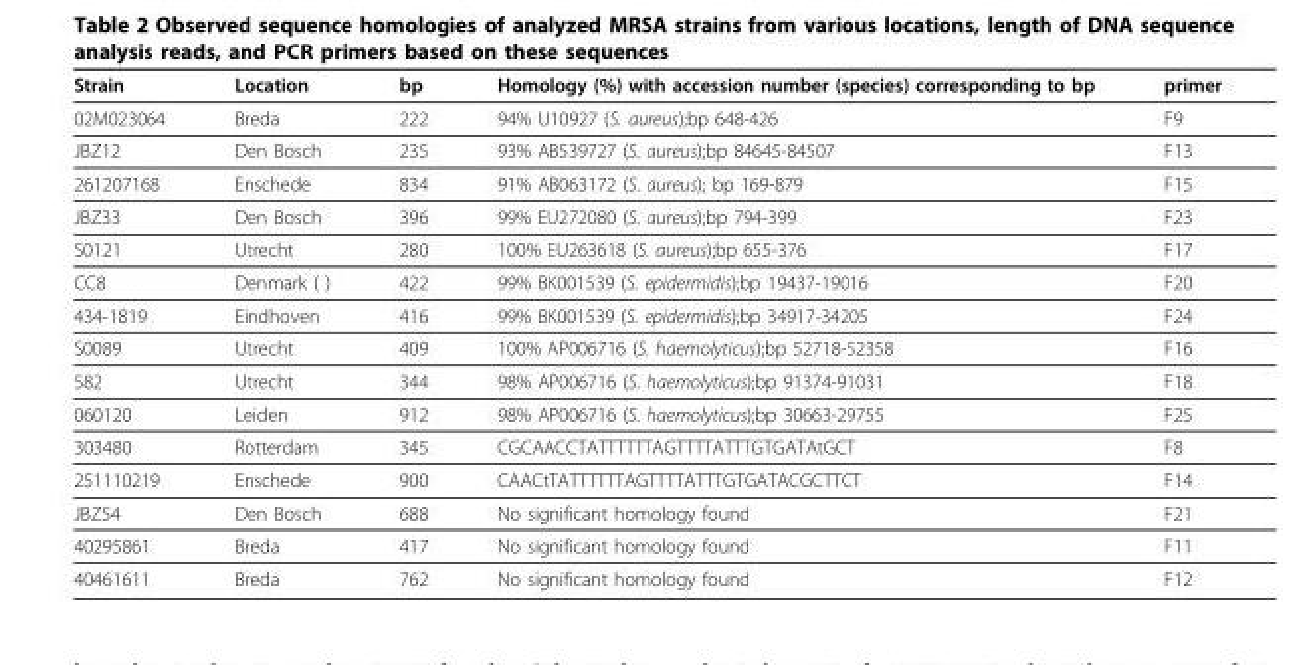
<table><thead><tr><td>Strain</td><td>Location</td><td>bp</td><td>Homology (%) with accession number (species) corresponding to bp</td><td>primer</td></tr></thead><tbody><tr><td>02M023064</td><td>Breda</td><td>222</td><td>94% U10927 (S. aureus);bp 648-426</td><td>F9</td></tr><tr><td>JBZ12</td><td>Den Bosch</td><td>235</td><td>93% AB539727 (S. aureus);bp 84645-84507</td><td>F13</td></tr><tr><td>261207168</td><td>Enschede</td><td>834</td><td>91% AB063172 (S. aureus); bp 169-879</td><td>F15</td></tr><tr><td>JBZ33</td><td>Den Bosch</td><td>396</td><td>99% EU272080 (S. aureus);bp 794-399</td><td>F23</td></tr><tr><td>S0121</td><td>Utrecht</td><td>280</td><td>100% EU263618 (S. aureus);bp 655-376</td><td>F17</td></tr><tr><td>CC8</td><td>Denmark ( )</td><td>422</td><td>99% BK001539 (S. epidermidis);bp 19437-19016</td><td>F20</td></tr><tr><td>434-1819</td><td>Eindhoven</td><td>416</td><td>99% BK001539 (S. epidermidis);bp 34917-34205</td><td>F24</td></tr><tr><td>S0089</td><td>Utrecht</td><td>409</td><td>100% AP006716 (S. haemolyticus);bp 52718-52358</td><td>F16</td></tr><tr><td>582</td><td>Utrecht</td><td>344</td><td>98% AP006716 (S. haemolyticus);bp 91374-91031</td><td>F18</td></tr><tr><td>060120</td><td>Leiden</td><td>912</td><td>98% AP006716 (S. haemolyticus);bp 30663-29755</td><td>F25</td></tr><tr><td>303480</td><td>Rotterdam</td><td>345</td><td>CGCAACCTATTTTTTAGTTTTATTTGTGATAtGCT</td><td>F8</td></tr><tr><td>251110219</td><td>Enschede</td><td>900</td><td>CAACtTATTTTTTAGTTTTATTTGTGATACGCTTCT</td><td>F14</td></tr><tr><td>JBZ54</td><td>Den Bosch</td><td>688</td><td>No significant homology found</td><td>F21</td></tr><tr><td>40295861</td><td>Breda</td><td>417</td><td>No significant homology found</td><td>F11</td></tr><tr><td>40461611</td><td>Breda</td><td>762</td><td>No significant homology found</td><td>F12</td></tr></tbody></table>